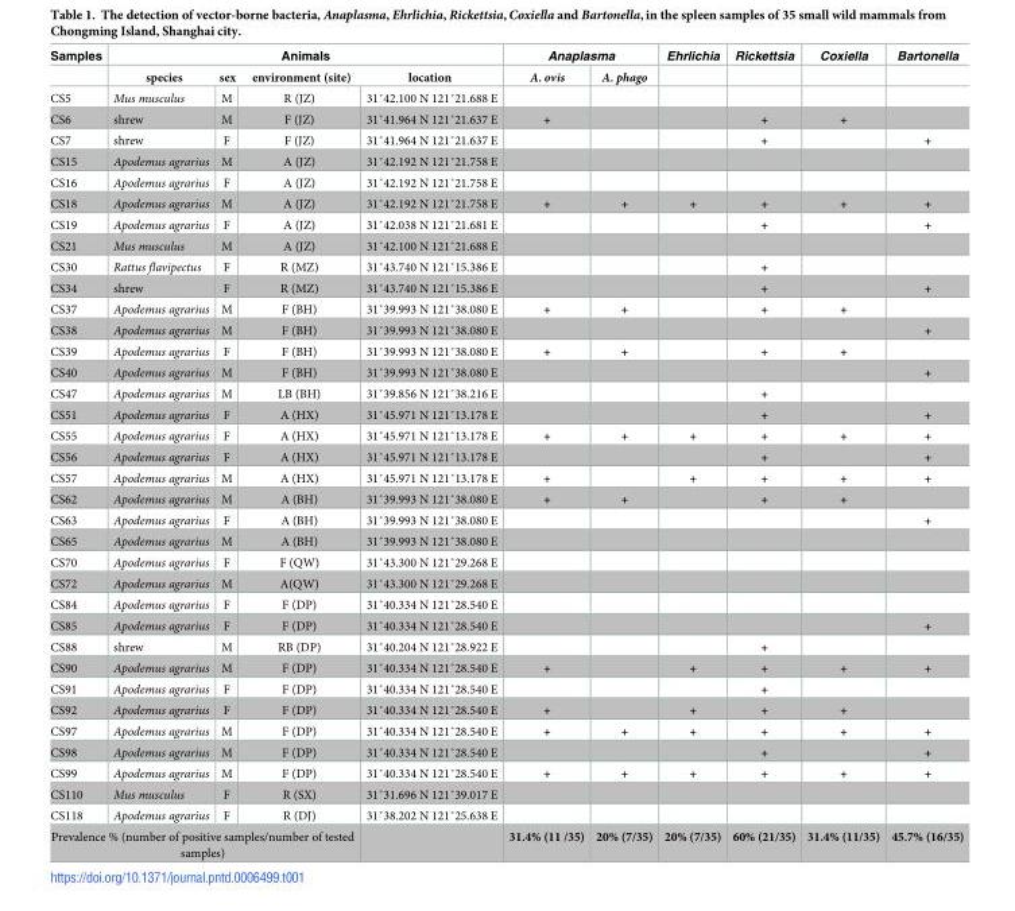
<table><thead><tr><td rowspan="3">Samples CS5</td><td rowspan="2" colspan="4">Animals species sex environment (site) location</td><td colspan="2">Anaplasma</td><td rowspan="3">Ehrlichia</td><td rowspan="3">Rickettsia</td><td rowspan="3">Coxiella</td><td rowspan="3">Bartonella</td></tr><tr><td rowspan="2">A. ovis</td><td rowspan="2">A. phago</td></tr><tr><td>Mus musculus</td><td>M</td><td>R (JZ)</td><td>31˚42.100 N 121˚21.688 E</td></tr></thead><tbody><tr><td>CS6</td><td>shrew</td><td>M</td><td>F (JZ)</td><td>31˚41.964 N 121˚21.637 E</td><td>+</td><td></td><td></td><td>+</td><td>+</td><td></td></tr><tr><td>CS7</td><td>shrew</td><td>F</td><td>F (JZ)</td><td>31˚41.964 N 121˚21.637 E</td><td></td><td></td><td></td><td>+</td><td></td><td>+</td></tr><tr><td>CS15</td><td>Apodemus agrarius</td><td>M</td><td>A (JZ)</td><td>31˚42.192 N 121˚21.758 E</td><td></td><td></td><td></td><td></td><td></td><td></td></tr><tr><td>CS16</td><td>Apodemus agrarius</td><td>F</td><td>A (JZ)</td><td>31˚42.192 N 121˚21.758 E</td><td></td><td></td><td></td><td></td><td></td><td></td></tr><tr><td>CS18</td><td>Apodemus agrarius</td><td>M</td><td>A (JZ)</td><td>31˚42.192 N 121˚21.758 E</td><td>+</td><td>+</td><td>+</td><td>+</td><td>+</td><td>+</td></tr><tr><td>CS19</td><td>Apodemus agrarius</td><td>F</td><td>A (JZ)</td><td>31˚42.038 N 121˚21.681 E</td><td></td><td></td><td></td><td>+</td><td></td><td>+</td></tr><tr><td>CS21</td><td>Mus musculus</td><td>M</td><td>A (JZ)</td><td>31˚42.100 N 121˚21.688 E</td><td></td><td></td><td></td><td></td><td></td><td></td></tr><tr><td>CS30</td><td>Rattus flavipectus</td><td>F</td><td>R (MZ)</td><td>31˚43.740 N 121˚15.386 E</td><td></td><td></td><td></td><td>+</td><td></td><td></td></tr><tr><td>CS34</td><td>shrew</td><td>F</td><td>R (MZ)</td><td>31˚43.740 N 121˚15.386 E</td><td></td><td></td><td></td><td>+</td><td></td><td>+</td></tr><tr><td>CS37</td><td>Apodemus agrarius</td><td>M</td><td>F (BH)</td><td>31˚39.993 N 121˚38.080 E</td><td>+</td><td>+</td><td></td><td>+</td><td>+</td><td></td></tr><tr><td>CS38</td><td>Apodemus agrarius</td><td>M</td><td>F (BH)</td><td>31˚39.993 N 121˚38.080 E</td><td></td><td></td><td></td><td></td><td></td><td>+</td></tr><tr><td>CS39</td><td>Apodemus agrarius</td><td>F</td><td>F (BH)</td><td>31˚39.993 N 121˚38.080 E</td><td>+</td><td>+</td><td></td><td>+</td><td>+</td><td></td></tr><tr><td>CS40</td><td>Apodemus agrarius</td><td>M</td><td>F (BH)</td><td>31˚39.993 N 121˚38.080 E</td><td></td><td></td><td></td><td></td><td></td><td>+</td></tr><tr><td>CS47</td><td>Apodemus agrarius</td><td>M</td><td>LB (BH)</td><td>31˚39.856 N 121˚38.216 E</td><td></td><td></td><td></td><td>+</td><td></td><td></td></tr><tr><td>CS51</td><td>Apodemus agrarius</td><td>F</td><td>A (HX)</td><td>31˚45.971 N 121˚13.178 E</td><td></td><td></td><td></td><td>+</td><td></td><td>+</td></tr><tr><td>CS55</td><td>Apodemus agrarius</td><td>F</td><td>A (HX)</td><td>31˚45.971 N 121˚13.178 E</td><td>+</td><td>+</td><td>+</td><td>+</td><td>+</td><td>+</td></tr><tr><td>CS56</td><td>Apodemus agrarius</td><td>F</td><td>A (HX)</td><td>31˚45.971 N 121˚13.178 E</td><td></td><td></td><td></td><td>+</td><td></td><td>+</td></tr><tr><td>CS57</td><td>Apodemus agrarius</td><td>M</td><td>A (HX)</td><td>31˚45.971 N 121˚13.178 E</td><td>+</td><td></td><td>+</td><td>+</td><td>+</td><td>+</td></tr><tr><td>CS62</td><td>Apodemus agrarius</td><td>M</td><td>A (BH)</td><td>31˚39.993 N 121˚38.080 E</td><td>+</td><td>+</td><td></td><td>+</td><td>+</td><td></td></tr><tr><td>CS63</td><td>Apodemus agrarius</td><td>F</td><td>A (BH)</td><td>31˚39.993 N 121˚38.080 E</td><td></td><td></td><td></td><td></td><td></td><td>+</td></tr><tr><td>CS65</td><td>Apodemus agrarius</td><td>M</td><td>A (BH)</td><td>31˚39.993 N 121˚38.080 E</td><td></td><td></td><td></td><td></td><td></td><td></td></tr><tr><td>CS70</td><td>Apodemus agrarius</td><td>F</td><td>F (QW)</td><td>31˚43.300 N 121˚29.268 E</td><td></td><td></td><td></td><td></td><td></td><td></td></tr><tr><td>CS72</td><td>Apodemus agrarius</td><td>M</td><td>A(QW)</td><td>31˚43.300 N 121˚29.268 E</td><td></td><td></td><td></td><td></td><td></td><td></td></tr><tr><td>CS84</td><td>Apodemus agrarius</td><td>F</td><td>F (DP)</td><td>31˚40.334 N 121˚28.540 E</td><td></td><td></td><td></td><td></td><td></td><td></td></tr><tr><td>CS85</td><td>Apodemus agrarius</td><td>F</td><td>F (DP)</td><td>31˚40.334 N 121˚28.540 E</td><td></td><td></td><td></td><td></td><td></td><td>+</td></tr><tr><td>CS88</td><td>shrew</td><td>M</td><td>RB (DP)</td><td>31˚40.204 N 121˚28.922 E</td><td></td><td></td><td></td><td>+</td><td></td><td></td></tr><tr><td>CS90</td><td>Apodemus agrarius</td><td>M</td><td>F (DP)</td><td>31˚40.334 N 121˚28.540 E</td><td>+</td><td></td><td>+</td><td>+</td><td>+</td><td>+</td></tr><tr><td>CS91</td><td>Apodemus agrarius</td><td>F</td><td>F (DP)</td><td>31˚40.334 N 121˚28.540 E</td><td></td><td></td><td></td><td>+</td><td></td><td></td></tr><tr><td>CS92</td><td>Apodemus agrarius</td><td>F</td><td>F (DP)</td><td>31˚40.334 N 121˚28.540 E</td><td>+</td><td></td><td>+</td><td>+</td><td>+</td><td></td></tr><tr><td>CS97</td><td>Apodemus agrarius</td><td>M</td><td>F (DP)</td><td>31˚40.334 N 121˚28.540 E</td><td>+</td><td>+</td><td>+</td><td>+</td><td>+</td><td>+</td></tr><tr><td>CS98</td><td>Apodemus agrarius</td><td>M</td><td>F (DP)</td><td>31˚40.334 N 121˚28.540 E</td><td></td><td></td><td></td><td>+</td><td></td><td>+</td></tr><tr><td>CS99</td><td>Apodemus agrarius</td><td>M</td><td>F (DP)</td><td>31˚40.334 N 121˚28.540 E</td><td>+</td><td>+</td><td>+</td><td>+</td><td>+</td><td>+</td></tr><tr><td>CS110</td><td>Mus musculus</td><td>F</td><td>R (SX)</td><td>31˚31.696 N 121˚39.017 E</td><td></td><td></td><td></td><td></td><td></td><td></td></tr><tr><td>CS118</td><td>Apodemus agrarius</td><td>F</td><td>R (DJ)</td><td>31˚38.202 N 121˚25.638 E</td><td></td><td></td><td></td><td></td><td></td><td></td></tr><tr><td colspan="4">Prevalence % (number of positive samples/number of tested samples)</td><td></td><td>31.4% (11 /35)</td><td>20% (7/35)</td><td>20% (7/35)</td><td>60% (21/35)</td><td>31.4% (11/35)</td><td>45.7% (16/35)</td></tr></tbody></table>